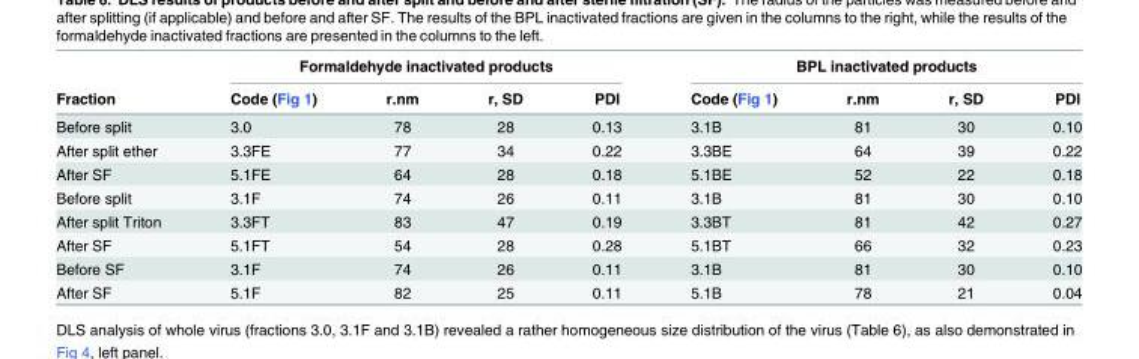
<table><thead><tr><td rowspan="2">Fraction</td><td colspan="4">Formaldehyde inactivated products</td><td colspan="4">BPL inactivated products</td></tr><tr><td>Code (Fig 1)</td><td>r.nm</td><td>r, SD</td><td>PDI</td><td>Code (Fig 1)</td><td>r.nm</td><td>r, SD</td><td>PDI</td></tr></thead><tbody><tr><td>Before split</td><td>3.0</td><td>78</td><td>28</td><td>0.13</td><td>3.1B</td><td>81</td><td>30</td><td>0.10</td></tr><tr><td>After split ether</td><td>3.3FE</td><td>77</td><td>34</td><td>0.22</td><td>3.3BE</td><td>64</td><td>39</td><td>0.22</td></tr><tr><td>After SF</td><td>5.1FE</td><td>64</td><td>28</td><td>0.18</td><td>5.1BE</td><td>52</td><td>22</td><td>0.18</td></tr><tr><td>Before split</td><td>3.1F</td><td>74</td><td>26</td><td>0.11</td><td>3.1B</td><td>81</td><td>30</td><td>0.10</td></tr><tr><td>After split Triton</td><td>3.3FT</td><td>83</td><td>47</td><td>0.19</td><td>3.3BT</td><td>81</td><td>42</td><td>0.27</td></tr><tr><td>After SF</td><td>5.1FT</td><td>54</td><td>28</td><td>0.28</td><td>5.1BT</td><td>66</td><td>32</td><td>0.23</td></tr><tr><td>Before SF</td><td>3.1F</td><td>74</td><td>26</td><td>0.11</td><td>3.1B</td><td>81</td><td>30</td><td>0.10</td></tr><tr><td>After SF</td><td>5.1F</td><td>82</td><td>25</td><td>0.11</td><td>5.1B</td><td>78</td><td>21</td><td>0.04</td></tr></tbody></table>